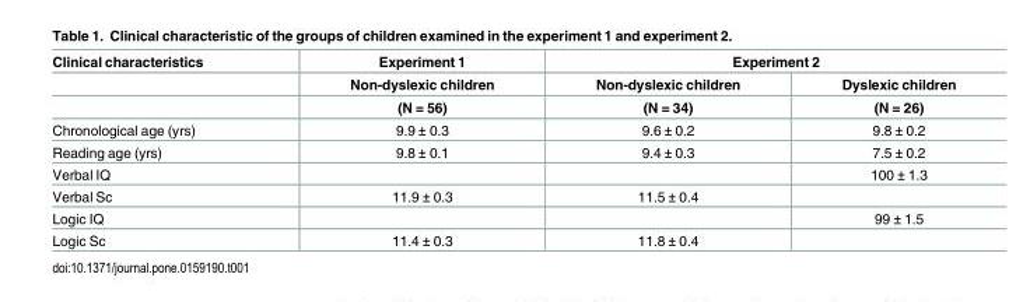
<table><thead><tr><td rowspan="3">Clinical characteristics</td><td rowspan="3">Experiment 1 Non-dyslexic children (N = 56)</td><td colspan="2">Experiment 2</td></tr><tr><td rowspan="2">Non-dyslexic children (N = 34)</td><td rowspan="2">Dyslexic children (N = 26)</td></tr><tr></tr></thead><tbody><tr><td>Chronological age (yrs)</td><td>9.9 ± 0.3</td><td>9.6 ± 0.2</td><td>9.8 ± 0.2</td></tr><tr><td>Reading age (yrs)</td><td>9.8 ± 0.1</td><td>9.4 ± 0.3</td><td>7.5 ± 0.2</td></tr><tr><td>Verbal IQ</td><td></td><td></td><td>100 ± 1.3</td></tr><tr><td>Verbal Sc</td><td>11.9 ± 0.3</td><td>11.5 ± 0.4</td><td></td></tr><tr><td>Logic IQ</td><td></td><td></td><td>99 ± 1.5</td></tr><tr><td>Logic Sc</td><td>11.4 ± 0.3</td><td>11.8 ± 0.4</td><td></td></tr></tbody></table>